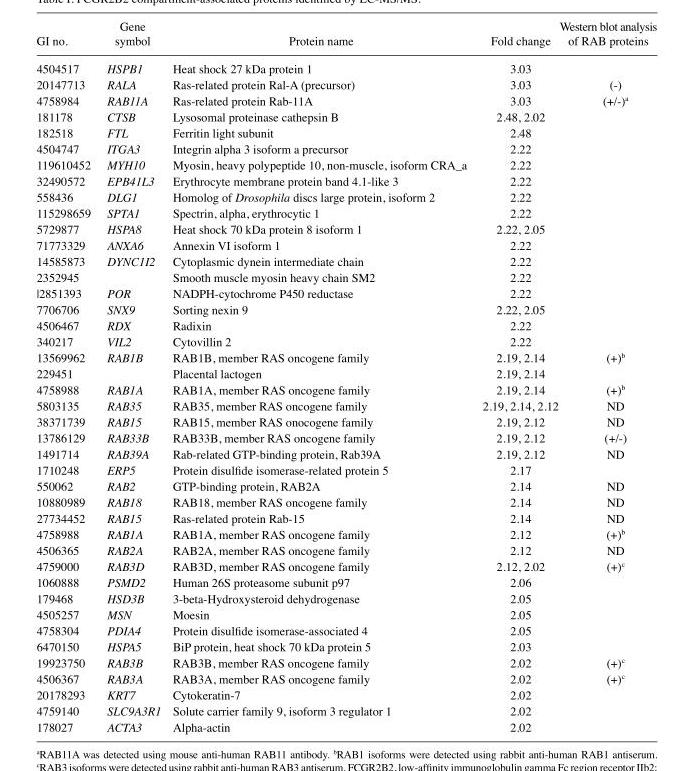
<table><thead><tr><td>GI no.</td><td>symbol</td><td>Protein name</td><td>Fold change</td><td>of RAB proteins</td></tr></thead><tbody><tr><td>4504517</td><td>HSPB1</td><td>Heat shock 27 kDa protein 1</td><td>3.03</td><td></td></tr><tr><td>20147713</td><td>RALA</td><td>Ras-related protein Ral-A (precursor)</td><td>3.03</td><td>(-)</td></tr><tr><td>4758984</td><td>RAB11A</td><td>Ras-related protein Rab-11A</td><td>3.03</td><td>(+/-)<sup>a</sup></td></tr><tr><td>181178</td><td>CTSB</td><td>Lysosomal proteinase cathepsin B</td><td>2.48, 2.02</td><td></td></tr><tr><td>182518</td><td>FTL</td><td>Ferritin light subunit</td><td>2.48</td><td></td></tr><tr><td>4504747</td><td>ITGA3</td><td>Integrin alpha 3 isoform a precursor</td><td>2.22</td><td></td></tr><tr><td>119610452</td><td>MYH10</td><td>Myosin, heavy polypeptide 10, non-muscle, isoform CRA_a</td><td>2.22</td><td></td></tr><tr><td>32490572</td><td>EPB41L3</td><td>Erythrocyte membrane protein band 4.1-like 3</td><td>2.22</td><td></td></tr><tr><td>558436</td><td>DLG1</td><td>Homolog of Drosophila discs large protein, isoform 2</td><td>2.22</td><td></td></tr><tr><td>115298659</td><td>SPTA1</td><td>Spectrin, alpha, erythrocytic 1</td><td>2.22</td><td></td></tr><tr><td>5729877</td><td>HSPA8</td><td>Heat shock 70 kDa protein 8 isoform 1</td><td>2.22, 2.05</td><td></td></tr><tr><td>71773329</td><td>ANXA6</td><td>Annexin VI isoform 1</td><td>2.22</td><td></td></tr><tr><td>14585873</td><td>DYNC1I2</td><td>Cytoplasmic dynein intermediate chain</td><td>2.22</td><td></td></tr><tr><td>2352945</td><td></td><td>Smooth muscle myosin heavy chain SM2</td><td>2.22</td><td></td></tr><tr><td>|2851393</td><td>POR</td><td>NADPH-cytochrome P450 reductase</td><td>2.22</td><td></td></tr><tr><td>7706706</td><td>SNX9</td><td>Sorting nexin 9</td><td>2.22, 2.05</td><td></td></tr><tr><td>4506467</td><td>RDX</td><td>Radixin</td><td>2.22</td><td></td></tr><tr><td>340217</td><td>VIL2</td><td>Cytovillin 2</td><td>2.22</td><td></td></tr><tr><td>13569962</td><td>RAB1B</td><td>RAB1B, member RAS oncogene family</td><td>2.19, 2.14</td><td>(+)<sup>b</sup></td></tr><tr><td>229451</td><td></td><td>Placental lactogen</td><td>2.19, 2.14</td><td></td></tr><tr><td>4758988</td><td>RAB1A</td><td>RAB1A, member RAS oncogene family</td><td>2.19, 2.14</td><td>(+)<sup>b</sup></td></tr><tr><td>5803135</td><td>RAB35</td><td>RAB35, member RAS oncogene family</td><td>2.19, 2.14, 2.12</td><td>ND</td></tr><tr><td>38371739</td><td>RAB15</td><td>RAB15, member RAS onocogene family</td><td>2.19, 2.12</td><td>ND</td></tr><tr><td>13786129</td><td>RAB33B</td><td>RAB33B, member RAS oncogene family</td><td>2.19, 2.12</td><td>(+/-)</td></tr><tr><td>1491714</td><td>RAB39A</td><td>Rab-related GTP-binding protein, Rab39A</td><td>2.19, 2.12</td><td>ND</td></tr><tr><td>1710248</td><td>ERP5</td><td>Protein disulfide isomerase-related protein 5</td><td>2.17</td><td></td></tr><tr><td>550062</td><td>RAB2</td><td>GTP-binding protein, RAB2A</td><td>2.14</td><td>ND</td></tr><tr><td>10880989</td><td>RAB18</td><td>RAB18, member RAS oncogene family</td><td>2.14</td><td>ND</td></tr><tr><td>27734452</td><td>RAB15</td><td>Ras-related protein Rab-15</td><td>2.14</td><td>ND</td></tr><tr><td>4758988</td><td>RAB1A</td><td>RAB1A, member RAS oncogene family</td><td>2.12</td><td>(+)<sup>b</sup></td></tr><tr><td>4506365</td><td>RAB2A</td><td>RAB2A, member RAS oncogene family</td><td>2.12</td><td>ND</td></tr><tr><td>4759000</td><td>RAB3D</td><td>RAB3D, member RAS oncogene family</td><td>2.12, 2.02</td><td>(+)<sup>c</sup></td></tr><tr><td>1060888</td><td>PSMD2</td><td>Human 26S proteasome subunit p97</td><td>2.06</td><td></td></tr><tr><td>179468</td><td>HSD3B</td><td>3-beta-Hydroxysteroid dehydrogenase</td><td>2.05</td><td></td></tr><tr><td>4505257</td><td>MSN</td><td>Moesin</td><td>2.05</td><td></td></tr><tr><td>4758304</td><td>PDIA4</td><td>Protein disulfide isomerase-associated 4</td><td>2.05</td><td></td></tr><tr><td>6470150</td><td>HSPA5</td><td>BiP protein, heat shock 70 kDa protein 5</td><td>2.03</td><td></td></tr><tr><td>19923750</td><td>RAB3B</td><td>RAB3B, member RAS oncogene family</td><td>2.02</td><td>(+)<sup>c</sup></td></tr><tr><td>4506367</td><td>RAB3A</td><td>RAB3A, member RAS oncogene family</td><td>2.02</td><td>(+)<sup>c</sup></td></tr><tr><td>20178293</td><td>KRT7</td><td>Cytokeratin-7</td><td>2.02</td><td></td></tr><tr><td>4759140</td><td>SLC9A3R1</td><td>Solute carrier family 9, isoform 3 regulator 1</td><td>2.02</td><td></td></tr><tr><td>178027</td><td>ACTA3</td><td>Alpha-actin</td><td>2.02</td><td></td></tr></tbody></table>